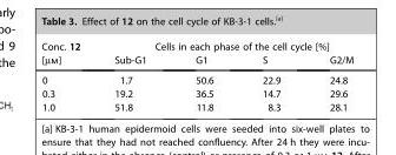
<table><thead><tr><td rowspan="2">Conc. 12 [μm]</td><td colspan="4">Cells in each phase of the cell cycle [%]</td></tr><tr><td>Sub-G1</td><td>G1</td><td>S</td><td>G2/M</td></tr></thead><tbody><tr><td>0</td><td>1.7</td><td>50.6</td><td>22.9</td><td>24.8</td></tr><tr><td>0.3</td><td>19.2</td><td>36.5</td><td>14.7</td><td>29.6</td></tr><tr><td>1.0</td><td>51.8</td><td>11.8</td><td>8.3</td><td>28.1</td></tr></tbody></table>